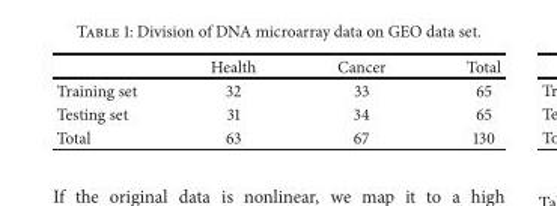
<table><thead><tr><td></td><td>Health</td><td>Cancer</td><td>Total</td></tr></thead><tbody><tr><td>Training set</td><td>32</td><td>33</td><td>65</td></tr><tr><td>Testing set</td><td>31</td><td>34</td><td>65</td></tr><tr><td>Total</td><td>63</td><td>67</td><td>130</td></tr></tbody></table>